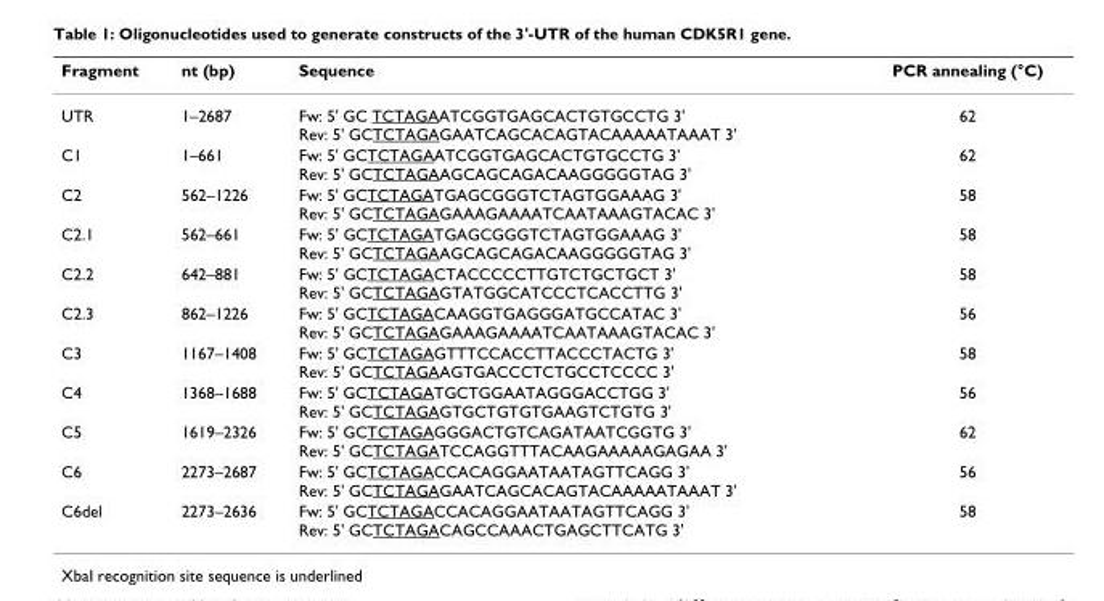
<table><thead><tr><td>Fragment</td><td>nt (bp)</td><td>Sequence</td><td>PCR annealing (°C)</td></tr></thead><tbody><tr><td>UTR</td><td>1–2687</td><td>Fw: 5&#x27; GC TCTAGAATCGGTGAGCACTGTGCCTG 3&#x27; Rev: 5&#x27; GCTCTAGAGAATCAGCACAGTACAAAAATAAAT 3&#x27;</td><td>62</td></tr><tr><td>C1</td><td>1–661</td><td>Fw: 5&#x27; GCTCTAGAATCGGTGAGCACTGTGCCTG 3&#x27; Rev: 5&#x27; GCTCTAGAAGCAGCAGACAAGGGGGTAG 3&#x27;</td><td>62</td></tr><tr><td>C2</td><td>562–1226</td><td>Fw: 5&#x27; GCTCTAGATGAGCGGGTCTAGTGGAAAG 3&#x27; Rev: 5&#x27; GCTCTAGAGAAAGAAAATCAATAAAGTACAC 3&#x27;</td><td>58</td></tr><tr><td>C2.1</td><td>562–661</td><td>Fw: 5&#x27; GCTCTAGATGAGCGGGTCTAGTGGAAAG 3&#x27; Rev: 5&#x27; GCTCTAGAAGCAGCAGACAAGGGGGTAG 3&#x27;</td><td>58</td></tr><tr><td>C2.2</td><td>642–881</td><td>Fw: 5&#x27; GCTCTAGACTACCCCCTTGTCTGCTGCT 3&#x27; Rev: 5&#x27; GCTCTAGAGTATGGCATCCCTCACCTTG 3&#x27;</td><td>58</td></tr><tr><td>C2.3</td><td>862–1226</td><td>Fw: 5&#x27; GCTCTAGACAAGGTGAGGGATGCCATAC 3&#x27; Rev: 5&#x27; GCTCTAGAGAAAGAAAATCAATAAAGTACAC 3&#x27;</td><td>56</td></tr><tr><td>C3</td><td>1167–1408</td><td>Fw: 5&#x27; GCTCTAGAGTTTCCACCTTACCCTACTG 3&#x27; Rev: 5&#x27; GCTCTAGAAGTGACCCTCTGCCTCCCC 3&#x27;</td><td>58</td></tr><tr><td>C4</td><td>1368–1688</td><td>Fw: 5&#x27; GCTCTAGATGCTGGAATAGGGACCTGG 3&#x27; Rev: 5&#x27; GCTCTAGAGTGCTGTGTGAAGTCTGTG 3&#x27;</td><td>56</td></tr><tr><td>C5</td><td>1619–2326</td><td>Fw: 5&#x27; GCTCTAGAGGGACTGTCAGATAATCGGTG 3&#x27; Rev: 5&#x27; GCTCTAGATCCAGGTTTACAAGAAAAAGAGAA 3&#x27;</td><td>62</td></tr><tr><td>C6</td><td>2273–2687</td><td>Fw: 5&#x27; GCTCTAGACCACAGGAATAATAGTTCAGG 3&#x27; Rev: 5&#x27; GCTCTAGAGAATCAGCACAGTACAAAAATAAAT 3&#x27;</td><td>56</td></tr><tr><td>C6del</td><td>2273–2636</td><td>Fw: 5&#x27; GCTCTAGACCACAGGAATAATAGTTCAGG 3&#x27; Rev: 5&#x27; GCTCTAGACAGCCAAACTGAGCTTCATG 3&#x27;</td><td>58</td></tr></tbody></table>